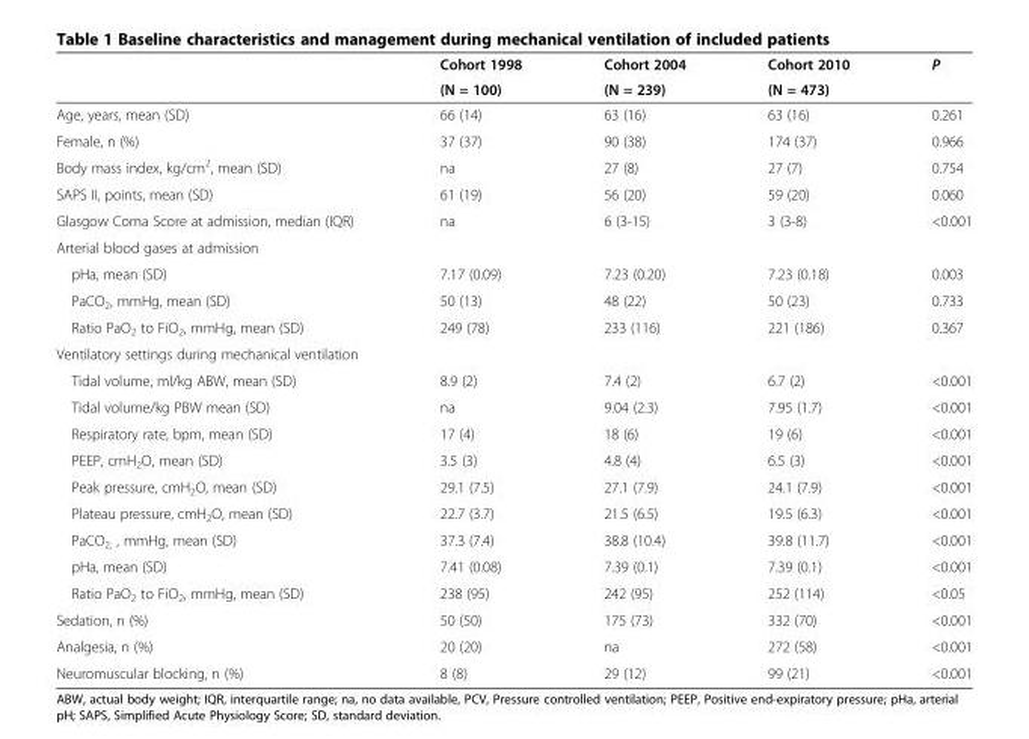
<table><thead><tr><td rowspan="2"></td><td rowspan="2">Cohort 1998 (N = 100)</td><td rowspan="2">Cohort 2004 (N = 239)</td><td rowspan="2">Cohort 2010 (N = 473)</td><td rowspan="2">P</td></tr><tr></tr></thead><tbody><tr><td>Age, years, mean (SD)</td><td>66 (14)</td><td>63 (16)</td><td>63 (16)</td><td>0.261</td></tr><tr><td>Female, n (%)</td><td>37 (37)</td><td>90 (38)</td><td>174 (37)</td><td>0.966</td></tr><tr><td>Body mass index, kg/cm<sup>2</sup>, mean (SD)</td><td>na</td><td>27 (8)</td><td>27 (7)</td><td>0.754</td></tr><tr><td>SAPS II, points, mean (SD)</td><td>61 (19)</td><td>56 (20)</td><td>59 (20)</td><td>0.060</td></tr><tr><td>Glasgow Coma Score at admission, median (IQR)</td><td>na</td><td>6 (3-15)</td><td>3 (3-8)</td><td>&lt;0.001</td></tr><tr><td colspan="5">Arterial blood gases at admission</td></tr><tr><td>pHa, mean (SD)</td><td>7.17 (0.09)</td><td>7.23 (0.20)</td><td>7.23 (0.18)</td><td>0.003</td></tr><tr><td>PaCO<sub>2</sub>, mmHg, mean (SD)</td><td>50 (13)</td><td>48 (22)</td><td>50 (23)</td><td>0.733</td></tr><tr><td>Ratio PaO<sub>2</sub> to FiO<sub>2</sub>, mmHg, mean (SD)</td><td>249 (78)</td><td>233 (116)</td><td>221 (186)</td><td>0.367</td></tr><tr><td colspan="5">Ventilatory settings during mechanical ventilation</td></tr><tr><td>Tidal volume, ml/kg ABW, mean (SD)</td><td>8.9 (2)</td><td>7.4 (2)</td><td>6.7 (2)</td><td>&lt;0.001</td></tr><tr><td>Tidal volume/kg PBW mean (SD)</td><td>na</td><td>9.04 (2.3)</td><td>7.95 (1.7)</td><td>&lt;0.001</td></tr><tr><td>Respiratory rate, bpm, mean (SD)</td><td>17 (4)</td><td>18 (6)</td><td>19 (6)</td><td>&lt;0.001</td></tr><tr><td>PEEP, cmH<sub>2</sub>O, mean (SD)</td><td>3.5 (3)</td><td>4.8 (4)</td><td>6.5 (3)</td><td>&lt;0.001</td></tr><tr><td>Peak pressure, cmH<sub>2</sub>O, mean (SD)</td><td>29.1 (7.5)</td><td>27.1 (7.9)</td><td>24.1 (7.9)</td><td>&lt;0.001</td></tr><tr><td>Plateau pressure, cmH<sub>2</sub>O, mean (SD)</td><td>22.7 (3.7)</td><td>21.5 (6.5)</td><td>19.5 (6.3)</td><td>&lt;0.001</td></tr><tr><td>PaCO<sub>2,</sub> , mmHg, mean (SD)</td><td>37.3 (7.4)</td><td>38.8 (10.4)</td><td>39.8 (11.7)</td><td>&lt;0.001</td></tr><tr><td>pHa, mean (SD)</td><td>7.41 (0.08)</td><td>7.39 (0.1)</td><td>7.39 (0.1)</td><td>&lt;0.001</td></tr><tr><td>Ratio PaO<sub>2</sub> to FiO<sub>2</sub>, mmHg, mean (SD)</td><td>238 (95)</td><td>242 (95)</td><td>252 (114)</td><td>&lt;0.05</td></tr><tr><td>Sedation, n (%)</td><td>50 (50)</td><td>175 (73)</td><td>332 (70)</td><td>&lt;0.001</td></tr><tr><td>Analgesia, n (%)</td><td>20 (20)</td><td>na</td><td>272 (58)</td><td>&lt;0.001</td></tr><tr><td>Neuromuscular blocking, n (%)</td><td>8 (8)</td><td>29 (12)</td><td>99 (21)</td><td>&lt;0.001</td></tr></tbody></table>